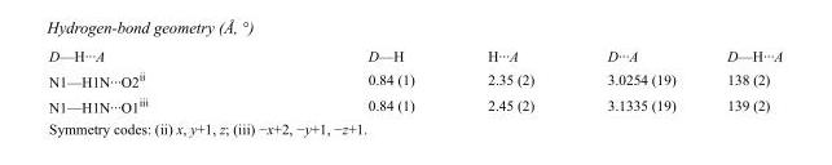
<table><tbody><tr><td>D—H···A</td><td>D—H</td><td>H···A</td><td>D···A</td><td>D—H···A</td></tr><tr><td>N1—H1N···O2<sup>ii</sup></td><td>0.84 (1)</td><td>2.35 (2)</td><td>3.0254 (19)</td><td>138 (2)</td></tr><tr><td>N1—H1N···O1<sup>iii</sup></td><td>0.84 (1)</td><td>2.45 (2)</td><td>3.1335 (19)</td><td>139 (2)</td></tr></tbody></table>